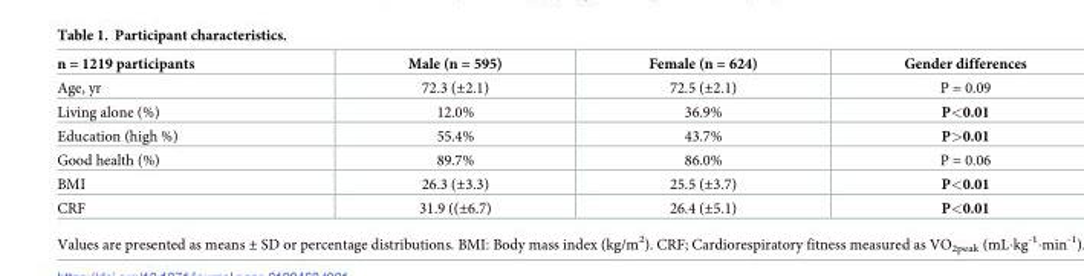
<table><thead><tr><td>n = 1219 participants</td><td>Male (n = 595)</td><td>Female (n = 624)</td><td>Gender differences</td></tr></thead><tbody><tr><td>Age, yr</td><td>72.3 (±2.1)</td><td>72.5 (±2.1)</td><td>P = 0.09</td></tr><tr><td>Living alone (%)</td><td>12.0%</td><td>36.9%</td><td>P&lt;0.01</td></tr><tr><td>Education (high %)</td><td>55.4%</td><td>43.7%</td><td>P&gt;0.01</td></tr><tr><td>Good health (%)</td><td>89.7%</td><td>86.0%</td><td>P = 0.06</td></tr><tr><td>BMI</td><td>26.3 (±3.3)</td><td>25.5 (±3.7)</td><td>P&lt;0.01</td></tr><tr><td>CRF</td><td>31.9 ((±6.7)</td><td>26.4 (±5.1)</td><td>P&lt;0.01</td></tr></tbody></table>